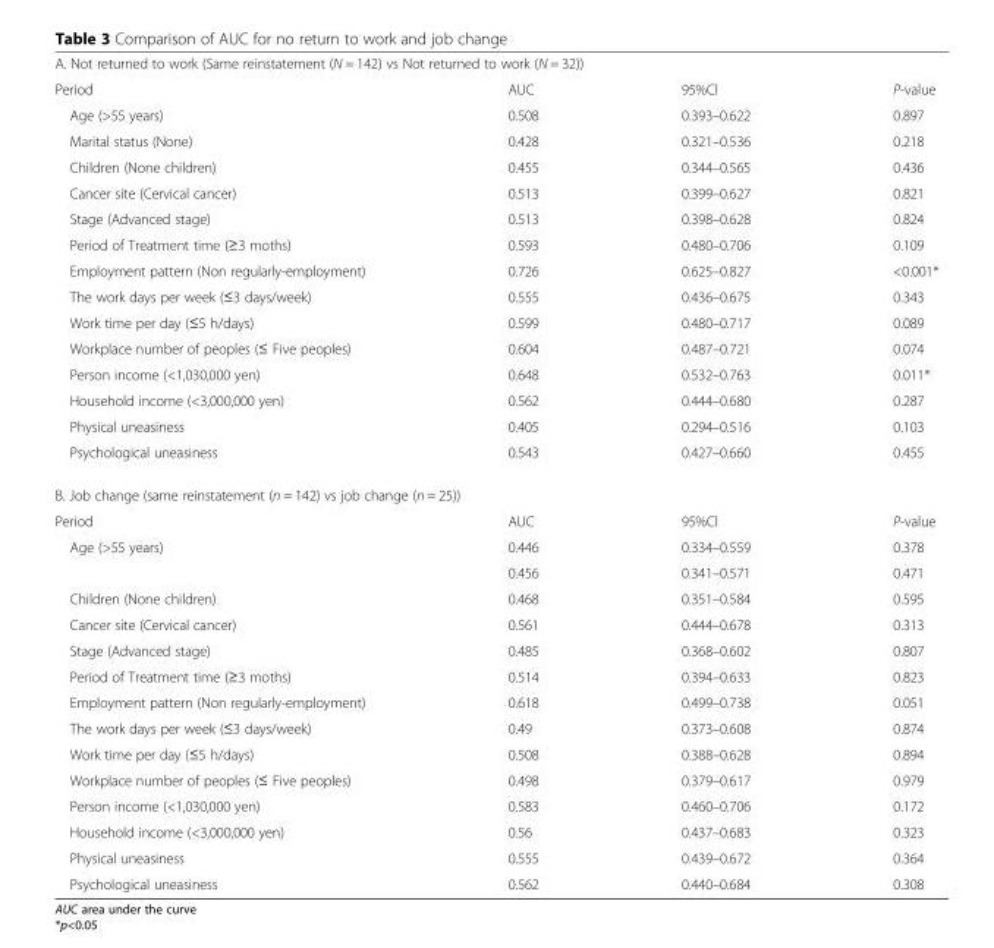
<table><tbody><tr><td colspan="4">A. Not returned to work (Same reinstatement (N = 142) vs Not returned to work (N = 32))</td></tr><tr><td>Period</td><td>AUC</td><td>95%Cl</td><td>P-value</td></tr><tr><td>Age (&gt;55 years)</td><td>0.508</td><td>0.393–0.622</td><td>0.897</td></tr><tr><td>Marital status (None)</td><td>0.428</td><td>0.321–0.536</td><td>0.218</td></tr><tr><td>Children (None children)</td><td>0.455</td><td>0.344–0.565</td><td>0.436</td></tr><tr><td>Cancer site (Cervical cancer)</td><td>0.513</td><td>0.399–0.627</td><td>0.821</td></tr><tr><td>Stage (Advanced stage)</td><td>0.513</td><td>0.398–0.628</td><td>0.824</td></tr><tr><td>Period of Treatment time (≥3 moths)</td><td>0.593</td><td>0.480–0.706</td><td>0.109</td></tr><tr><td>Employment pattern (Non regularly-employment)</td><td>0.726</td><td>0.625–0.827</td><td>&lt;0.001*</td></tr><tr><td>The work days per week (≤3 days/week)</td><td>0.555</td><td>0.436–0.675</td><td>0.343</td></tr><tr><td>Work time per day (≤5 h/days)</td><td>0.599</td><td>0.480–0.717</td><td>0.089</td></tr><tr><td>Workplace number of peoples (≤ Five peoples)</td><td>0.604</td><td>0.487–0.721</td><td>0.074</td></tr><tr><td>Person income (&lt;1,030,000 yen)</td><td>0.648</td><td>0.532–0.763</td><td>0.011*</td></tr><tr><td>Household income (&lt;3,000,000 yen)</td><td>0.562</td><td>0.444–0.680</td><td>0.287</td></tr><tr><td>Physical uneasiness</td><td>0.405</td><td>0.294–0.516</td><td>0.103</td></tr><tr><td>Psychological uneasiness</td><td>0.543</td><td>0.427–0.660</td><td>0.455</td></tr><tr><td colspan="4">B. Job change (same reinstatement (n = 142) vs job change (n = 25))</td></tr><tr><td>Period</td><td>AUC</td><td>95%Cl</td><td>P-value</td></tr><tr><td rowspan="2">Age (&gt;55 years)</td><td>0.446</td><td>0.334–0.559</td><td>0.378</td></tr><tr><td>0.456</td><td>0.341–0.571</td><td>0.471</td></tr><tr><td>Children (None children)</td><td>0.468</td><td>0.351–0.584</td><td>0.595</td></tr><tr><td>Cancer site (Cervical cancer)</td><td>0.561</td><td>0.444–0.678</td><td>0.313</td></tr><tr><td>Stage (Advanced stage)</td><td>0.485</td><td>0.368–0.602</td><td>0.807</td></tr><tr><td>Period of Treatment time (≥3 moths)</td><td>0.514</td><td>0.394–0.633</td><td>0.823</td></tr><tr><td>Employment pattern (Non regularly-employment)</td><td>0.618</td><td>0.499–0.738</td><td>0.051</td></tr><tr><td>The work days per week (≤3 days/week)</td><td>0.49</td><td>0.373–0.608</td><td>0.874</td></tr><tr><td>Work time per day (≤5 h/days)</td><td>0.508</td><td>0.388–0.628</td><td>0.894</td></tr><tr><td>Workplace number of peoples (≤ Five peoples)</td><td>0.498</td><td>0.379–0.617</td><td>0.979</td></tr><tr><td>Person income (&lt;1,030,000 yen)</td><td>0.583</td><td>0.460–0.706</td><td>0.172</td></tr><tr><td>Household income (&lt;3,000,000 yen)</td><td>0.56</td><td>0.437–0.683</td><td>0.323</td></tr><tr><td>Physical uneasiness</td><td>0.555</td><td>0.439–0.672</td><td>0.364</td></tr><tr><td>Psychological uneasiness</td><td>0.562</td><td>0.440–0.684</td><td>0.308</td></tr></tbody></table>